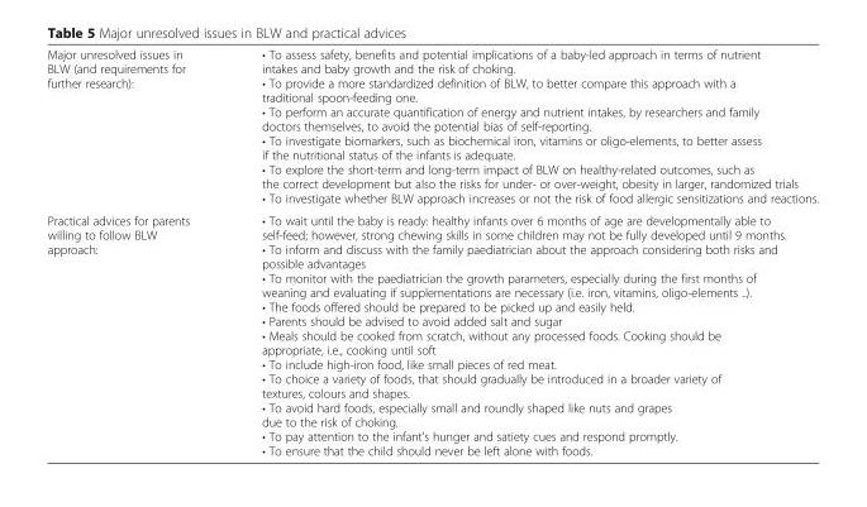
<table><tbody><tr><td>Major unresolved issues in BLW (and requirements for further research):</td><td>• To assess safety, benefits and potential implications of a baby-led approach in terms of nutrient intakes and baby growth and the risk of choking. • To provide a more standardized definition of BLW, to better compare this approach with a traditional spoon-feeding one. • To perform an accurate quantification of energy and nutrient intakes, by researchers and family doctors themselves, to avoid the potential bias of self-reporting. • To investigate biomarkers, such as biochemical iron, vitamins or oligo-elements, to better assess if the nutritional status of the infants is adequate. • To explore the short-term and long-term impact of BLW on healthy-related outcomes, such as the correct development but also the risks for under- or over-weight, obesity in larger, randomized trials • To investigate whether BLW approach increases or not the risk of food allergic sensitizations and reactions.</td></tr><tr><td>Practical advices for parents willing to follow BLW approach:</td><td>• To wait until the baby is ready: healthy infants over 6 months of age are developmentally able to self-feed; however, strong chewing skills in some children may not be fully developed until 9 months. • To inform and discuss with the family paediatrician about the approach considering both risks and possible advantages • To monitor with the paediatrician the growth parameters, especially during the first months of weaning and evaluating if supplementations are necessary (i.e. iron, vitamins, oligo-elements ..). • The foods offered should be prepared to be picked up and easily held. • Parents should be advised to avoid added salt and sugar • Meals should be cooked from scratch, without any processed foods. Cooking should be appropriate, i.e., cooking until soft • To include high-iron food, like small pieces of red meat. • To choice a variety of foods, that should gradually be introduced in a broader variety of textures, colours and shapes. • To avoid hard foods, especially small and roundly shaped like nuts and grapes due to the risk of choking. • To pay attention to the infant’s hunger and satiety cues and respond promptly. • To ensure that the child should never be left alone with foods.</td></tr></tbody></table>